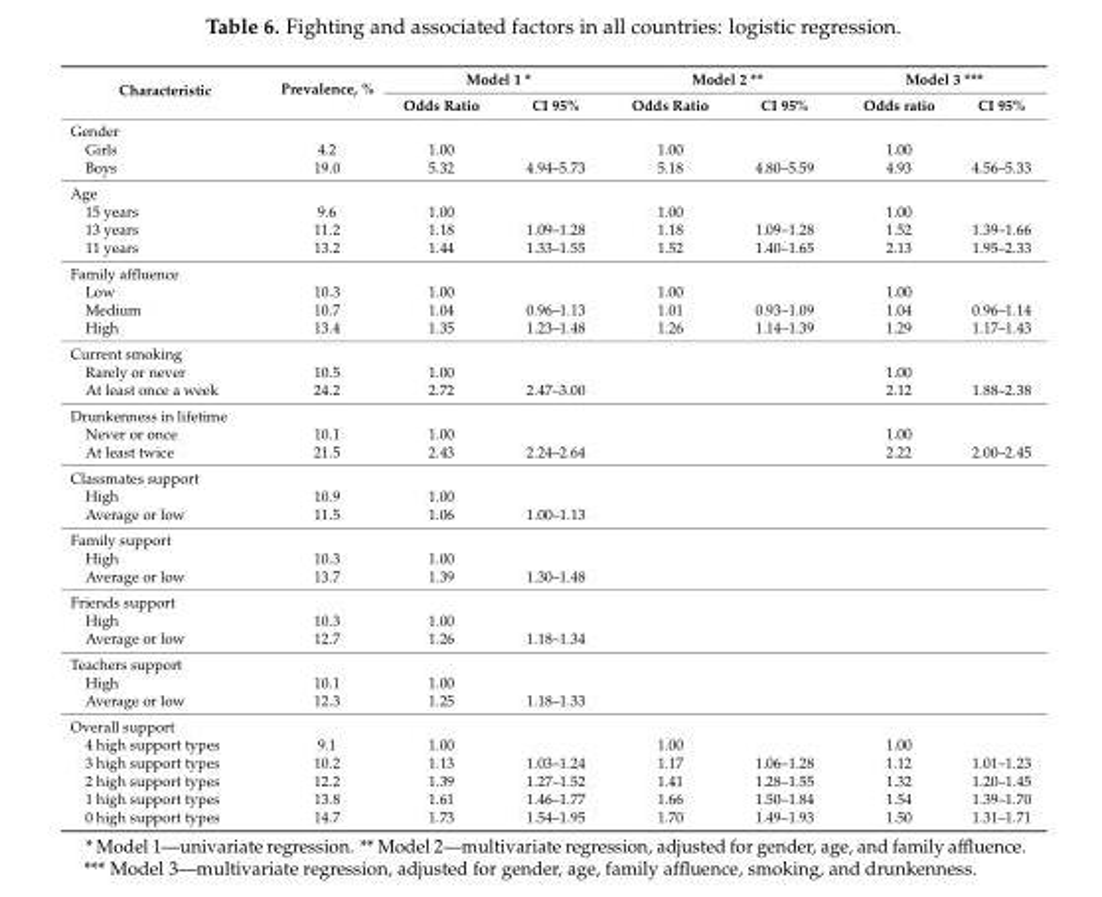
<table><thead><tr><td rowspan="2">Characteristic</td><td rowspan="2">Prevalence, %</td><td colspan="2">Model 1 *</td><td colspan="2">Model 2 **</td><td colspan="2">Model 3 ***</td></tr><tr><td>Odds Ratio</td><td>CI 95%</td><td>Odds Ratio</td><td>CI 95%</td><td>Odds ratio</td><td>CI 95%</td></tr></thead><tbody><tr><td colspan="8">Gender</td></tr><tr><td>Girls</td><td>4.2</td><td>1.00</td><td></td><td>1.00</td><td></td><td>1.00</td><td></td></tr><tr><td>Boys</td><td>19.0</td><td>5.32</td><td>4.94–5.73</td><td>5.18</td><td>4.80–5.59</td><td>4.93</td><td>4.56–5.33</td></tr><tr><td colspan="8">Age</td></tr><tr><td>15 years</td><td>9.6</td><td>1.00</td><td></td><td>1.00</td><td></td><td>1.00</td><td></td></tr><tr><td>13 years</td><td>11.2</td><td>1.18</td><td>1.09–1.28</td><td>1.18</td><td>1.09–1.28</td><td>1.52</td><td>1.39–1.66</td></tr><tr><td>11 years</td><td>13.2</td><td>1.44</td><td>1.33–1.55</td><td>1.52</td><td>1.40–1.65</td><td>2.13</td><td>1.95–2.33</td></tr><tr><td colspan="8">Family affluence</td></tr><tr><td>Low</td><td>10.3</td><td>1.00</td><td></td><td>1.00</td><td></td><td>1.00</td><td></td></tr><tr><td>Medium</td><td>10.7</td><td>1.04</td><td>0.96–1.13</td><td>1.01</td><td>0.93–1.09</td><td>1.04</td><td>0.96–1.14</td></tr><tr><td>High</td><td>13.4</td><td>1.35</td><td>1.23–1.48</td><td>1.26</td><td>1.14–1.39</td><td>1.29</td><td>1.17–1.43</td></tr><tr><td colspan="8">Current smoking</td></tr><tr><td>Rarely or never</td><td>10.5</td><td>1.00</td><td></td><td></td><td></td><td>1.00</td><td></td></tr><tr><td>At least once a week</td><td>24.2</td><td>2.72</td><td>2.47–3.00</td><td></td><td></td><td>2.12</td><td>1.88–2.38</td></tr><tr><td colspan="8">Drunkenness in lifetime</td></tr><tr><td>Never or once</td><td>10.1</td><td>1.00</td><td></td><td></td><td></td><td>1.00</td><td></td></tr><tr><td>At least twice</td><td>21.5</td><td>2.43</td><td>2.24–2.64</td><td></td><td></td><td>2.22</td><td>2.00–2.45</td></tr><tr><td colspan="8">Classmates support</td></tr><tr><td>High</td><td>10.9</td><td>1.00</td><td></td><td></td><td></td><td></td><td></td></tr><tr><td>Average or low</td><td>11.5</td><td>1.06</td><td>1.00–1.13</td><td></td><td></td><td></td><td></td></tr><tr><td colspan="8">Family support</td></tr><tr><td>High</td><td>10.3</td><td>1.00</td><td></td><td></td><td></td><td></td><td></td></tr><tr><td>Average or low</td><td>13.7</td><td>1.39</td><td>1.30–1.48</td><td></td><td></td><td></td><td></td></tr><tr><td colspan="8">Friends support</td></tr><tr><td>High</td><td>10.3</td><td>1.00</td><td></td><td></td><td></td><td></td><td></td></tr><tr><td>Average or low</td><td>12.7</td><td>1.26</td><td>1.18–1.34</td><td></td><td></td><td></td><td></td></tr><tr><td colspan="8">Teachers support</td></tr><tr><td>High</td><td>10.1</td><td>1.00</td><td></td><td></td><td></td><td></td><td></td></tr><tr><td>Average or low</td><td>12.3</td><td>1.25</td><td>1.18–1.33</td><td></td><td></td><td></td><td></td></tr><tr><td colspan="8">Overall support</td></tr><tr><td>4 high support types</td><td>9.1</td><td>1.00</td><td></td><td>1.00</td><td></td><td>1.00</td><td></td></tr><tr><td>3 high support types</td><td>10.2</td><td>1.13</td><td>1.03–1.24</td><td>1.17</td><td>1.06–1.28</td><td>1.12</td><td>1.01–1.23</td></tr><tr><td>2 high support types</td><td>12.2</td><td>1.39</td><td>1.27–1.52</td><td>1.41</td><td>1.28–1.55</td><td>1.32</td><td>1.20–1.45</td></tr><tr><td>1 high support types</td><td>13.8</td><td>1.61</td><td>1.46–1.77</td><td>1.66</td><td>1.50–1.84</td><td>1.54</td><td>1.39–1.70</td></tr><tr><td>0 high support types</td><td>14.7</td><td>1.73</td><td>1.54–1.95</td><td>1.70</td><td>1.49–1.93</td><td>1.50</td><td>1.31–1.71</td></tr></tbody></table>